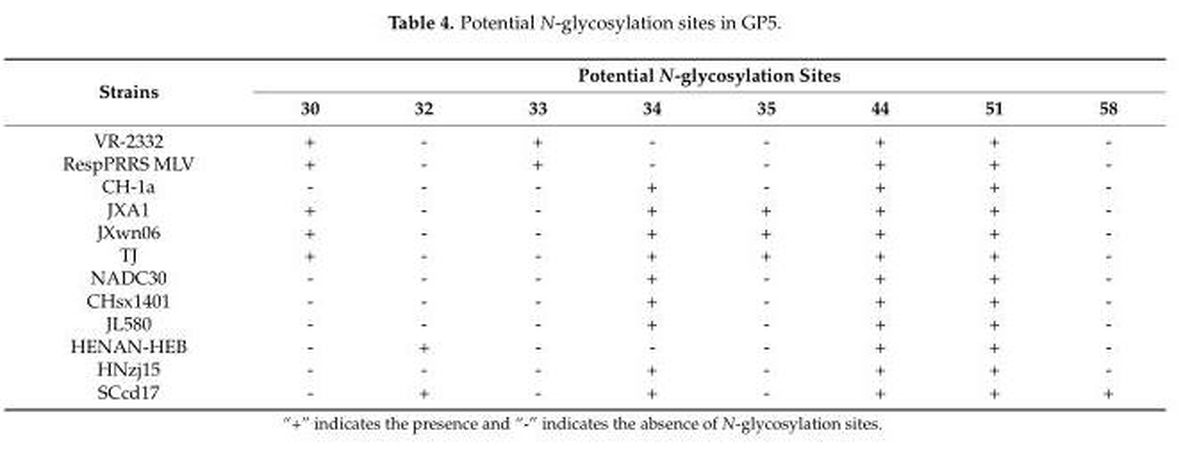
<table><thead><tr><td rowspan="2">Strains</td><td colspan="8">Potential N-glycosylation Sites</td></tr><tr><td>30</td><td>32</td><td>33</td><td>34</td><td>35</td><td>44</td><td>51</td><td>58</td></tr></thead><tbody><tr><td>VR-2332</td><td>+</td><td>-</td><td>+</td><td>-</td><td>-</td><td>+</td><td>+</td><td>-</td></tr><tr><td>RespPRRS MLV</td><td>+</td><td>-</td><td>+</td><td>-</td><td>-</td><td>+</td><td>+</td><td>-</td></tr><tr><td>CH-1a</td><td>-</td><td>-</td><td>-</td><td>+</td><td>-</td><td>+</td><td>+</td><td>-</td></tr><tr><td>JXA1</td><td>+</td><td>-</td><td>-</td><td>+</td><td>+</td><td>+</td><td>+</td><td>-</td></tr><tr><td>JXwn06</td><td>+</td><td>-</td><td>-</td><td>+</td><td>+</td><td>+</td><td>+</td><td>-</td></tr><tr><td>TJ</td><td>+</td><td>-</td><td>-</td><td>+</td><td>+</td><td>+</td><td>+</td><td>-</td></tr><tr><td>NADC30</td><td>-</td><td>-</td><td>-</td><td>+</td><td>-</td><td>+</td><td>+</td><td>-</td></tr><tr><td>CHsx1401</td><td>-</td><td>-</td><td>-</td><td>+</td><td>-</td><td>+</td><td>+</td><td>-</td></tr><tr><td>JL580</td><td>-</td><td>-</td><td>-</td><td>+</td><td>-</td><td>+</td><td>+</td><td>-</td></tr><tr><td>HENAN-HEB</td><td>-</td><td>+</td><td>-</td><td>-</td><td>-</td><td>+</td><td>+</td><td>-</td></tr><tr><td>HNzj15</td><td>-</td><td>-</td><td>-</td><td>+</td><td>-</td><td>+</td><td>+</td><td>-</td></tr><tr><td>SCcd17</td><td>-</td><td>+</td><td>-</td><td>+</td><td>-</td><td>+</td><td>+</td><td>+</td></tr></tbody></table>